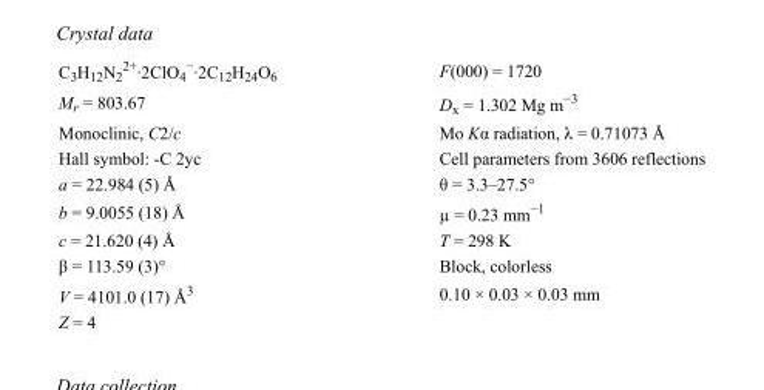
<table><tbody><tr><td>C<sub>3</sub>H<sub>12</sub>N<sub>2</sub> <sup>2+</sup>·2ClO<sub>4</sub> <sup>−</sup>·2C<sub>12</sub>H<sub>24</sub>O<sub>6</sub></td><td>F(000) = 1720</td></tr><tr><td>M<sub>r</sub> = 803.67</td><td>D<sub>x</sub> = 1.302 Mg m<sup>−3</sup></td></tr><tr><td>Monoclinic, C2/c</td><td>Mo Kα radiation, λ = 0.71073 Å</td></tr><tr><td>Hall symbol: -C 2yc</td><td>Cell parameters from 3606 reflections</td></tr><tr><td>a = 22.984 (5) Å</td><td>θ = 3.3–27.5°</td></tr><tr><td>b = 9.0055 (18) Å</td><td>µ = 0.23 mm<sup>−1</sup></td></tr><tr><td>c = 21.620 (4) Å</td><td>T = 298 K</td></tr><tr><td>β = 113.59 (3)°</td><td>Block, colorless</td></tr><tr><td>V = 4101.0 (17) Å<sup>3</sup></td><td>0.10 × 0.03 × 0.03 mm</td></tr><tr><td>Z = 4</td><td></td></tr></tbody></table>